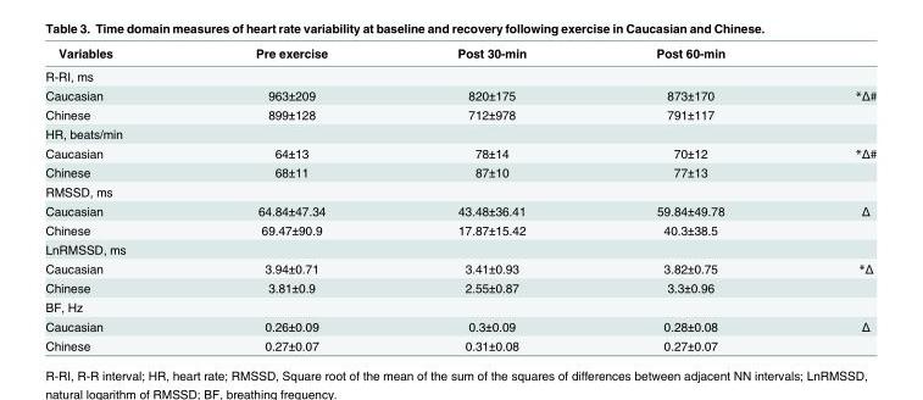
<table><thead><tr><td>Variables</td><td>Pre exercise</td><td>Post 30-min</td><td>Post 60-min</td><td></td></tr></thead><tbody><tr><td colspan="5">R-RI, ms</td></tr><tr><td>Caucasian</td><td>963±209</td><td>820±175</td><td>873±170</td><td>*Δ#</td></tr><tr><td>Chinese</td><td>899±128</td><td>712±978</td><td>791±117</td><td></td></tr><tr><td colspan="5">HR, beats/min</td></tr><tr><td>Caucasian</td><td>64±13</td><td>78±14</td><td>70±12</td><td>*Δ#</td></tr><tr><td>Chinese</td><td>68±11</td><td>87±10</td><td>77±13</td><td></td></tr><tr><td colspan="5">RMSSD, ms</td></tr><tr><td>Caucasian</td><td>64.84±47.34</td><td>43.48±36.41</td><td>59.84±49.78</td><td>Δ</td></tr><tr><td>Chinese</td><td>69.47±90.9</td><td>17.87±15.42</td><td>40.3±38.5</td><td></td></tr><tr><td colspan="5">LnRMSSD, ms</td></tr><tr><td>Caucasian</td><td>3.94±0.71</td><td>3.41±0.93</td><td>3.82±0.75</td><td>*Δ</td></tr><tr><td>Chinese</td><td>3.81±0.9</td><td>2.55±0.87</td><td>3.3±0.96</td><td></td></tr><tr><td colspan="5">BF, Hz</td></tr><tr><td>Caucasian</td><td>0.26±0.09</td><td>0.3±0.09</td><td>0.28±0.08</td><td>Δ</td></tr><tr><td>Chinese</td><td>0.27±0.07</td><td>0.31±0.08</td><td>0.27±0.07</td><td></td></tr></tbody></table>